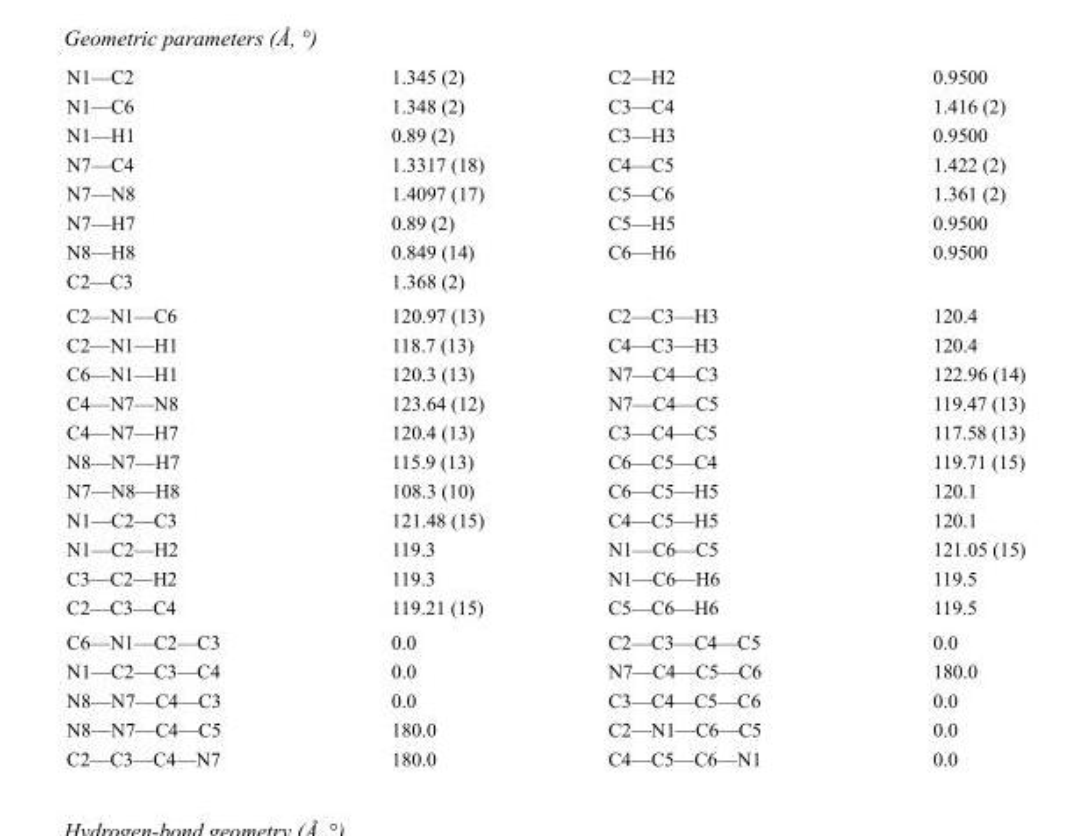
<table><tbody><tr><td>N1—C2</td><td>1.345 (2)</td><td>C2—H2</td><td>0.9500</td></tr><tr><td>N1—C6</td><td>1.348 (2)</td><td>C3—C4</td><td>1.416 (2)</td></tr><tr><td>N1—H1</td><td>0.89 (2)</td><td>C3—H3</td><td>0.9500</td></tr><tr><td>N7—C4</td><td>1.3317 (18)</td><td>C4—C5</td><td>1.422 (2)</td></tr><tr><td>N7—N8</td><td>1.4097 (17)</td><td>C5—C6</td><td>1.361 (2)</td></tr><tr><td>N7—H7</td><td>0.89 (2)</td><td>C5—H5</td><td>0.9500</td></tr><tr><td>N8—H8</td><td>0.849 (14)</td><td>C6—H6</td><td>0.9500</td></tr><tr><td>C2—C3</td><td>1.368 (2)</td><td></td><td></td></tr><tr><td>C2—N1—C6</td><td>120.97 (13)</td><td>C2—C3—H3</td><td>120.4</td></tr><tr><td>C2—N1—H1</td><td>118.7 (13)</td><td>C4—C3—H3</td><td>120.4</td></tr><tr><td>C6—N1—H1</td><td>120.3 (13)</td><td>N7—C4—C3</td><td>122.96 (14)</td></tr><tr><td>C4—N7—N8</td><td>123.64 (12)</td><td>N7—C4—C5</td><td>119.47 (13)</td></tr><tr><td>C4—N7—H7</td><td>120.4 (13)</td><td>C3—C4—C5</td><td>117.58 (13)</td></tr><tr><td>N8—N7—H7</td><td>115.9 (13)</td><td>C6—C5—C4</td><td>119.71 (15)</td></tr><tr><td>N7—N8—H8</td><td>108.3 (10)</td><td>C6—C5—H5</td><td>120.1</td></tr><tr><td>N1—C2—C3</td><td>121.48 (15)</td><td>C4—C5—H5</td><td>120.1</td></tr><tr><td>N1—C2—H2</td><td>119.3</td><td>N1—C6—C5</td><td>121.05 (15)</td></tr><tr><td>C3—C2—H2</td><td>119.3</td><td>N1—C6—H6</td><td>119.5</td></tr><tr><td>C2—C3—C4</td><td>119.21 (15)</td><td>C5—C6—H6</td><td>119.5</td></tr><tr><td>C6—N1—C2—C3</td><td>0.0</td><td>C2—C3—C4—C5</td><td>0.0</td></tr><tr><td>N1—C2—C3—C4</td><td>0.0</td><td>N7—C4—C5—C6</td><td>180.0</td></tr><tr><td>N8—N7—C4—C3</td><td>0.0</td><td>C3—C4—C5—C6</td><td>0.0</td></tr><tr><td>N8—N7—C4—C5</td><td>180.0</td><td>C2—N1—C6—C5</td><td>0.0</td></tr><tr><td>C2—C3—C4—N7</td><td>180.0</td><td>C4—C5—C6—N1</td><td>0.0</td></tr></tbody></table>